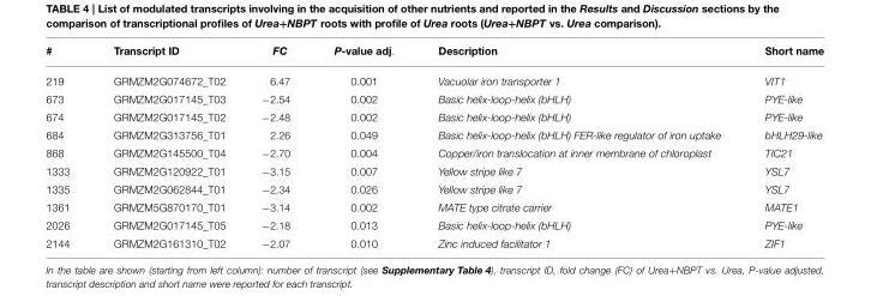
<table><thead><tr><td>#</td><td>Transcript ID</td><td>FC</td><td>P-value adj.</td><td>Description</td><td>Short name</td></tr></thead><tbody><tr><td>219</td><td>GRMZM2G074672_T02</td><td>6.47</td><td>0.001</td><td>Vacuolar iron transporter 1</td><td>VIT1</td></tr><tr><td>673</td><td>GRMZM2G017145_T03</td><td>−2.54</td><td>0.002</td><td>Basic helix-loop-helix (bHLH)</td><td>PYE-like</td></tr><tr><td>674</td><td>GRMZM2G017145_T02</td><td>−2.48</td><td>0.002</td><td>Basic helix-loop-helix (bHLH)</td><td>PYE-like</td></tr><tr><td>684</td><td>GRMZM2G313756_T01</td><td>2.26</td><td>0.049</td><td>Basic helix-loop-helix (bHLH) FER-like regulator of iron uptake</td><td>bHLH29-like</td></tr><tr><td>868</td><td>GRMZM2G145500_T04</td><td>−2.70</td><td>0.004</td><td>Copper/iron translocation at inner membrane of chloroplast</td><td>TIC21</td></tr><tr><td>1333</td><td>GRMZM2G120922_T01</td><td>−3.15</td><td>0.007</td><td>Yellow stripe like 7</td><td>YSL7</td></tr><tr><td>1335</td><td>GRMZM2G062844_T01</td><td>−2.34</td><td>0.026</td><td>Yellow stripe like 7</td><td>YSL7</td></tr><tr><td>1361</td><td>GRMZM5G870170_T01</td><td>−3.14</td><td>0.002</td><td>MATE type citrate carrier</td><td>MATE1</td></tr><tr><td>2026</td><td>GRMZM2G017145_T05</td><td>−2.18</td><td>0.013</td><td>Basic helix-loop-helix (bHLH)</td><td>PYE-like</td></tr><tr><td>2144</td><td>GRMZM2G161310_T02</td><td>−2.07</td><td>0.010</td><td>Zinc induced facilitator 1</td><td>ZIF1</td></tr></tbody></table>